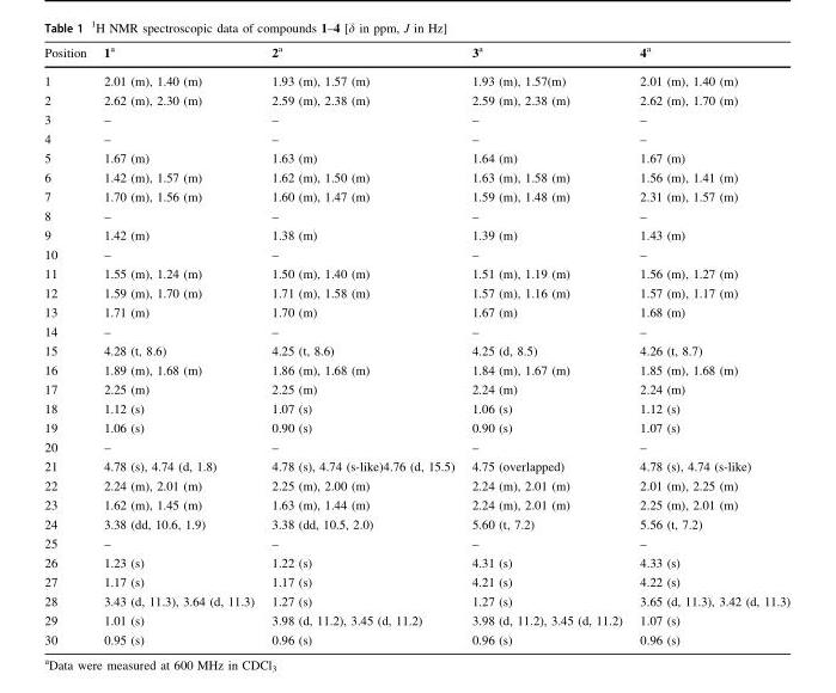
<table><thead><tr><td>Position</td><td>1<sup>a</sup></td><td>2<sup>a</sup></td><td>3<sup>a</sup></td><td>4<sup>a</sup></td></tr></thead><tbody><tr><td>1</td><td>2.01 (m), 1.40 (m)</td><td>1.93 (m), 1.57 (m)</td><td>1.93 (m), 1.57(m)</td><td>2.01 (m), 1.40 (m)</td></tr><tr><td>2</td><td>2.62 (m), 2.30 (m)</td><td>2.59 (m), 2.38 (m)</td><td>2.59 (m), 2.38 (m)</td><td>2.62 (m), 1.70 (m)</td></tr><tr><td>3</td><td>–</td><td>–</td><td>–</td><td>–</td></tr><tr><td>4</td><td>–</td><td>–</td><td>–</td><td>–</td></tr><tr><td>5</td><td>1.67 (m)</td><td>1.63 (m)</td><td>1.64 (m)</td><td>1.67 (m)</td></tr><tr><td>6</td><td>1.42 (m), 1.57 (m)</td><td>1.62 (m), 1.50 (m)</td><td>1.63 (m), 1.58 (m)</td><td>1.56 (m), 1.41 (m)</td></tr><tr><td>7</td><td>1.70 (m), 1.56 (m)</td><td>1.60 (m), 1.47 (m)</td><td>1.59 (m), 1.48 (m)</td><td>2.31 (m), 1.57 (m)</td></tr><tr><td>8</td><td>–</td><td>–</td><td>–</td><td>–</td></tr><tr><td>9</td><td>1.42 (m)</td><td>1.38 (m)</td><td>1.39 (m)</td><td>1.43 (m)</td></tr><tr><td>10</td><td>–</td><td>–</td><td>–</td><td>–</td></tr><tr><td>11</td><td>1.55 (m), 1.24 (m)</td><td>1.50 (m), 1.40 (m)</td><td>1.51 (m), 1.19 (m)</td><td>1.56 (m), 1.27 (m)</td></tr><tr><td>12</td><td>1.59 (m), 1.70 (m)</td><td>1.71 (m), 1.58 (m)</td><td>1.57 (m), 1.16 (m)</td><td>1.57 (m), 1.17 (m)</td></tr><tr><td>13</td><td>1.71 (m)</td><td>1.70 (m)</td><td>1.67 (m)</td><td>1.68 (m)</td></tr><tr><td>14</td><td>–</td><td>–</td><td>–</td><td>–</td></tr><tr><td>15</td><td>4.28 (t, 8.6)</td><td>4.25 (t, 8.6)</td><td>4.25 (d, 8.5)</td><td>4.26 (t, 8.7)</td></tr><tr><td>16</td><td>1.89 (m), 1.68 (m)</td><td>1.86 (m), 1.68 (m)</td><td>1.84 (m), 1.67 (m)</td><td>1.85 (m), 1.68 (m)</td></tr><tr><td>17</td><td>2.25 (m)</td><td>2.25 (m)</td><td>2.24 (m)</td><td>2.24 (m)</td></tr><tr><td>18</td><td>1.12 (s)</td><td>1.07 (s)</td><td>1.06 (s)</td><td>1.12 (s)</td></tr><tr><td>19</td><td>1.06 (s)</td><td>0.90 (s)</td><td>0.90 (s)</td><td>1.07 (s)</td></tr><tr><td>20</td><td>–</td><td>–</td><td>–</td><td>–</td></tr><tr><td>21</td><td>4.78 (s), 4.74 (d, 1.8)</td><td>4.78 (s), 4.74 (s-like)4.76 (d, 15.5)</td><td>4.75 (overlapped)</td><td>4.78 (s), 4.74 (s-like)</td></tr><tr><td>22</td><td>2.24 (m), 2.01 (m)</td><td>2.25 (m), 2.00 (m)</td><td>2.24 (m), 2.01 (m)</td><td>2.01 (m), 2.25 (m)</td></tr><tr><td>23</td><td>1.62 (m), 1.45 (m)</td><td>1.63 (m), 1.44 (m)</td><td>2.24 (m), 2.01 (m)</td><td>2.25 (m), 2.01 (m)</td></tr><tr><td>24</td><td>3.38 (dd, 10.6, 1.9)</td><td>3.38 (dd, 10.5, 2.0)</td><td>5.60 (t, 7.2)</td><td>5.56 (t, 7.2)</td></tr><tr><td>25</td><td>–</td><td>–</td><td>–</td><td>–</td></tr><tr><td>26</td><td>1.23 (s)</td><td>1.22 (s)</td><td>4.31 (s)</td><td>4.33 (s)</td></tr><tr><td>27</td><td>1.17 (s)</td><td>1.17 (s)</td><td>4.21 (s)</td><td>4.22 (s)</td></tr><tr><td>28</td><td>3.43 (d, 11.3), 3.64 (d, 11.3)</td><td>1.27 (s)</td><td>1.27 (s)</td><td>3.65 (d, 11.3), 3.42 (d, 11.3)</td></tr><tr><td>29</td><td>1.01 (s)</td><td>3.98 (d, 11.2), 3.45 (d, 11.2)</td><td>3.98 (d, 11.2), 3.45 (d, 11.2)</td><td>1.07 (s)</td></tr><tr><td>30</td><td>0.95 (s)</td><td>0.96 (s)</td><td>0.96 (s)</td><td>0.96 (s)</td></tr></tbody></table>